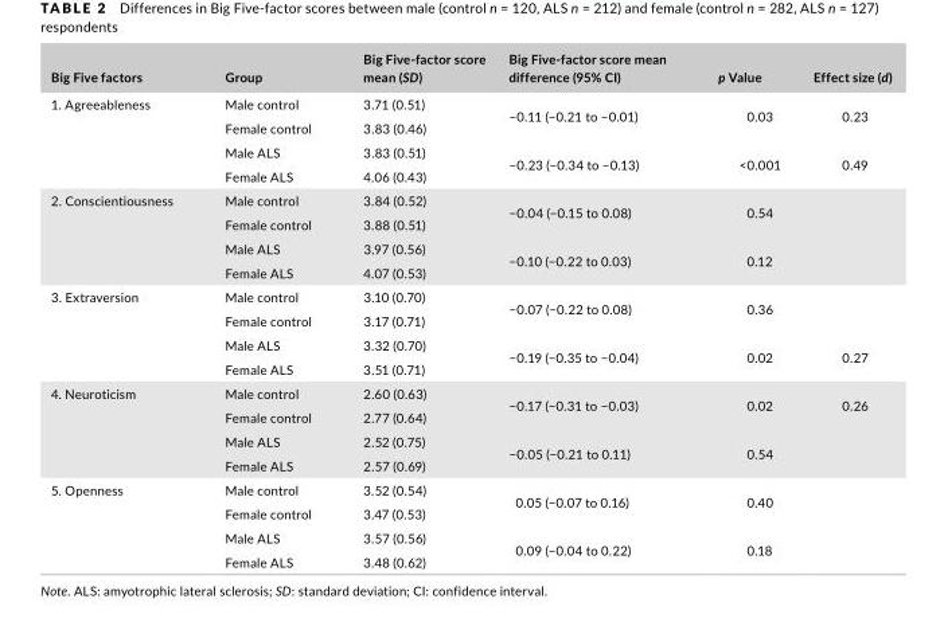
<table><thead><tr><td>Big Five factors</td><td>Group</td><td>Big Five‐factor score mean (SD)</td><td>Big Five‐factor score mean difference (95% CI)</td><td>p Value</td><td>Effect size (d)</td></tr></thead><tbody><tr><td rowspan="4">1. Agreeableness</td><td>Male control</td><td>3.71 (0.51)</td><td rowspan="2">−0.11 (−0.21 to −0.01)</td><td rowspan="2">0.03</td><td rowspan="2">0.23</td></tr><tr><td>Female control</td><td>3.83 (0.46)</td></tr><tr><td>Male ALS</td><td>3.83 (0.51)</td><td rowspan="2">−0.23 (−0.34 to −0.13)</td><td rowspan="2">&lt;0.001</td><td rowspan="2">0.49</td></tr><tr><td>Female ALS</td><td>4.06 (0.43)</td></tr><tr><td rowspan="4">2. Conscientiousness</td><td>Male control</td><td>3.84 (0.52)</td><td rowspan="2">−0.04 (−0.15 to 0.08)</td><td rowspan="2">0.54</td><td rowspan="2"></td></tr><tr><td>Female control</td><td>3.88 (0.51)</td></tr><tr><td>Male ALS</td><td>3.97 (0.56)</td><td rowspan="2">−0.10 (−0.22 to 0.03)</td><td rowspan="2">0.12</td><td rowspan="2"></td></tr><tr><td>Female ALS</td><td>4.07 (0.53)</td></tr><tr><td rowspan="4">3. Extraversion</td><td>Male control</td><td>3.10 (0.70)</td><td rowspan="2">−0.07 (−0.22 to 0.08)</td><td rowspan="2">0.36</td><td rowspan="2"></td></tr><tr><td>Female control</td><td>3.17 (0.71)</td></tr><tr><td>Male ALS</td><td>3.32 (0.70)</td><td rowspan="2">−0.19 (−0.35 to −0.04)</td><td rowspan="2">0.02</td><td rowspan="2">0.27</td></tr><tr><td>Female ALS</td><td>3.51 (0.71)</td></tr><tr><td rowspan="4">4. Neuroticism</td><td>Male control</td><td>2.60 (0.63)</td><td rowspan="2">−0.17 (−0.31 to −0.03)</td><td rowspan="2">0.02</td><td rowspan="2">0.26</td></tr><tr><td>Female control</td><td>2.77 (0.64)</td></tr><tr><td>Male ALS</td><td>2.52 (0.75)</td><td rowspan="2">−0.05 (−0.21 to 0.11)</td><td rowspan="2">0.54</td><td rowspan="2"></td></tr><tr><td>Female ALS</td><td>2.57 (0.69)</td></tr><tr><td rowspan="4">5. Openness</td><td>Male control</td><td>3.52 (0.54)</td><td rowspan="2">0.05 (−0.07 to 0.16)</td><td rowspan="2">0.40</td><td rowspan="2"></td></tr><tr><td>Female control</td><td>3.47 (0.53)</td></tr><tr><td>Male ALS</td><td>3.57 (0.56)</td><td rowspan="2">0.09 (−0.04 to 0.22)</td><td rowspan="2">0.18</td><td rowspan="2"></td></tr><tr><td>Female ALS</td><td>3.48 (0.62)</td></tr></tbody></table>